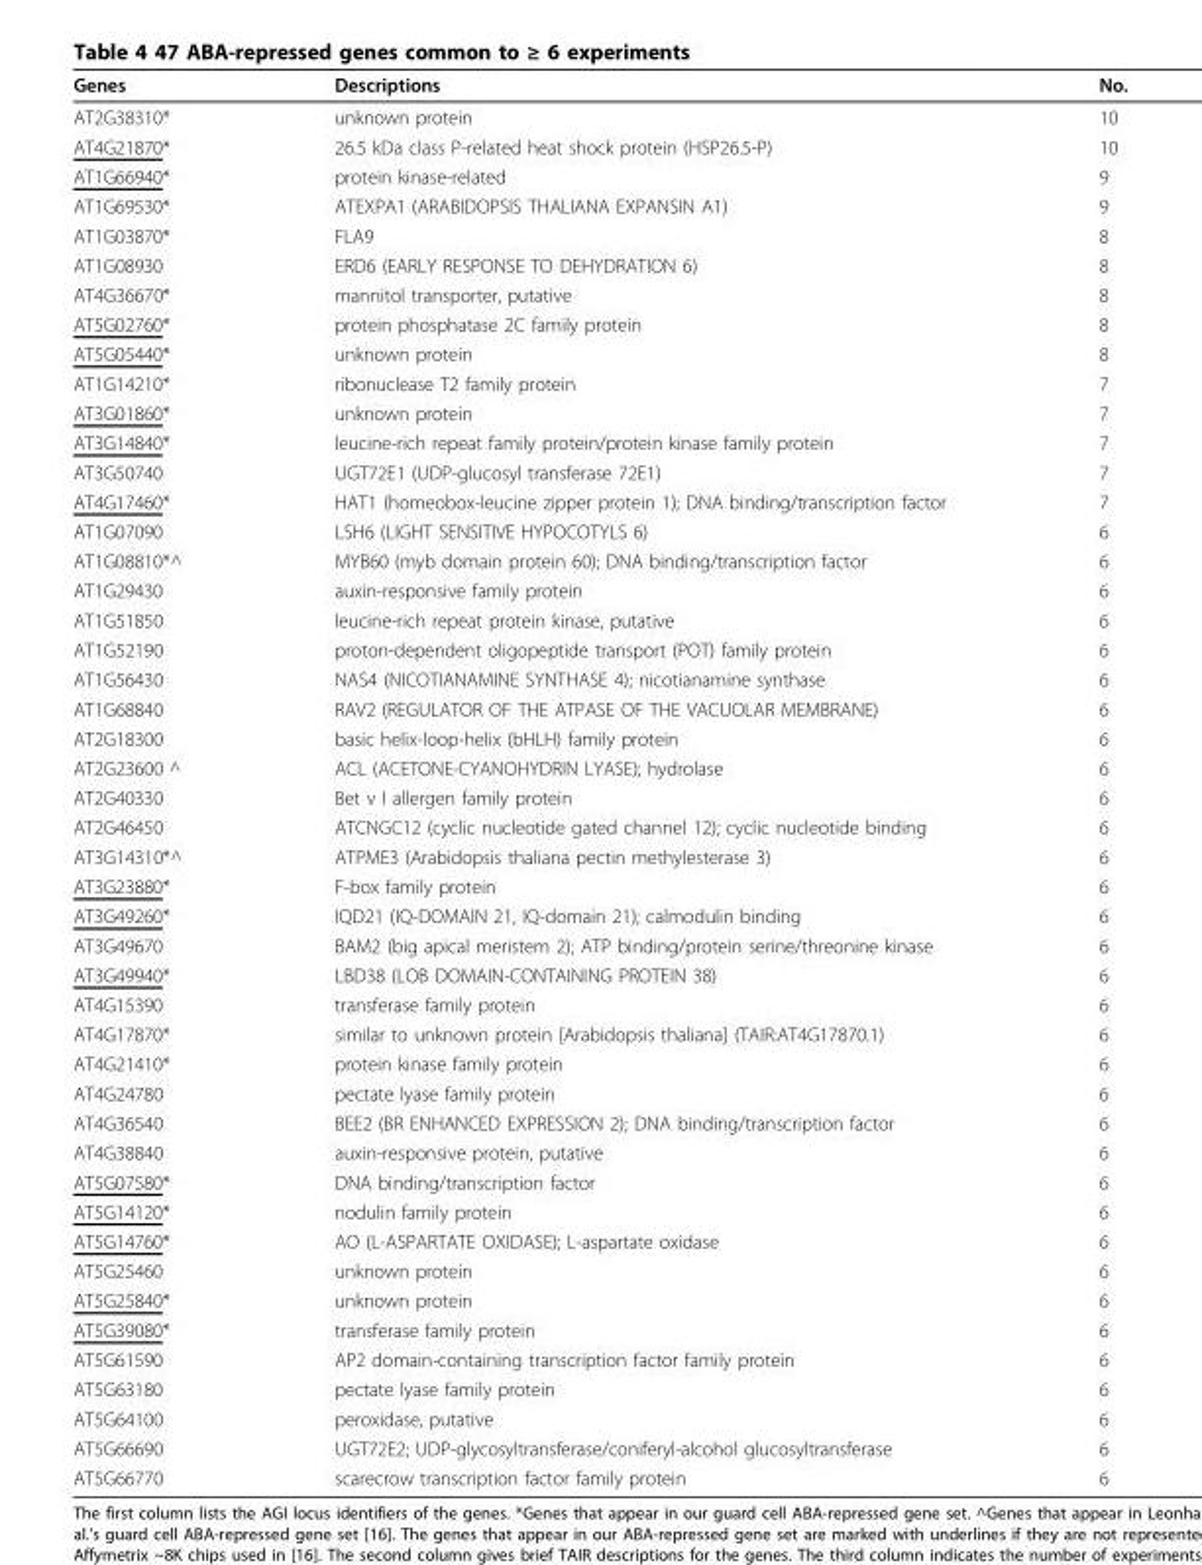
<table><thead><tr><td>Genes</td><td>Descriptions</td><td>No.</td></tr></thead><tbody><tr><td>AT2G38310*</td><td>unknown protein</td><td>10</td></tr><tr><td>AT4G21870*</td><td>26.5 kDa class P-related heat shock protein (HSP26.5-P)</td><td>10</td></tr><tr><td>AT1G66940*</td><td>protein kinase-related</td><td>9</td></tr><tr><td>AT1G69530*</td><td>ATEXPA1 (ARABIDOPSIS THALIANA EXPANSIN A1)</td><td>9</td></tr><tr><td>AT1G03870*</td><td>FLA9</td><td>8</td></tr><tr><td>AT1G08930</td><td>ERD6 (EARLY RESPONSE TO DEHYDRATION 6)</td><td>8</td></tr><tr><td>AT4G36670*</td><td>mannitol transporter, putative</td><td>8</td></tr><tr><td>AT5G02760*</td><td>protein phosphatase 2C family protein</td><td>8</td></tr><tr><td>AT5G05440*</td><td>unknown protein</td><td>8</td></tr><tr><td>AT1G14210*</td><td>ribonuclease T2 family protein</td><td>7</td></tr><tr><td>AT3G01860*</td><td>unknown protein</td><td>7</td></tr><tr><td>AT3G14840*</td><td>leucine-rich repeat family protein/protein kinase family protein</td><td>7</td></tr><tr><td>AT3G50740</td><td>UGT72E1 (UDP-glucosyl transferase 72E1)</td><td>7</td></tr><tr><td>AT4G17460*</td><td>HAT1 (homeobox-leucine zipper protein 1); DNA binding/transcription factor</td><td>7</td></tr><tr><td>AT1G07090</td><td>LSH6 (LIGHT SENSITIVE HYPOCOTYLS 6)</td><td>6</td></tr><tr><td>AT1G08810*^</td><td>MYB60 (myb domain protein 60); DNA binding/transcription factor</td><td>6</td></tr><tr><td>AT1G29430</td><td>auxin-responsive family protein</td><td>6</td></tr><tr><td>AT1G51850</td><td>leucine-rich repeat protein kinase, putative</td><td>6</td></tr><tr><td>AT1G52190</td><td>proton-dependent oligopeptide transport (POT) family protein</td><td>6</td></tr><tr><td>AT1G56430</td><td>NAS4 (NICOTIANAMINE SYNTHASE 4); nicotianamine synthase</td><td>6</td></tr><tr><td>AT1G68840</td><td>RAV2 (REGULATOR OF THE ATPASE OF THE VACUOLAR MEMBRANE)</td><td>6</td></tr><tr><td>AT2G18300</td><td>basic helix-loop-helix (bHLH) family protein</td><td>6</td></tr><tr><td>AT2G23600 ^</td><td>ACL (ACETONE-CYANOHYDRIN LYASE); hydrolase</td><td>6</td></tr><tr><td>AT2G40330</td><td>Bet v I allergen family protein</td><td>6</td></tr><tr><td>AT2G46450</td><td>ATCNGC12 (cyclic nucleotide gated channel 12); cyclic nucleotide binding</td><td>6</td></tr><tr><td>AT3G14310*^</td><td>ATPME3 (Arabidopsis thaliana pectin methylesterase 3)</td><td>6</td></tr><tr><td>AT3G23880*</td><td>F-box family protein</td><td>6</td></tr><tr><td>AT3G49260*</td><td>IQD21 (IQ-DOMAIN 21, IQ-domain 21); calmodulin binding</td><td>6</td></tr><tr><td>AT3G49670</td><td>BAM2 (big apical meristem 2); ATP binding/protein serine/threonine kinase</td><td>6</td></tr><tr><td>AT3G49940*</td><td>LBD38 (LOB DOMAIN-CONTAINING PROTEIN 38)</td><td>6</td></tr><tr><td>AT4G15390</td><td>transferase family protein</td><td>6</td></tr><tr><td>AT4G17870*</td><td>similar to unknown protein [Arabidopsis thaliana] (TAIR:AT4G17870.1)</td><td>6</td></tr><tr><td>AT4G21410*</td><td>protein kinase family protein</td><td>6</td></tr><tr><td>AT4G24780</td><td>pectate lyase family protein</td><td>6</td></tr><tr><td>AT4G36540</td><td>BEE2 (BR ENHANCED EXPRESSION 2); DNA binding/transcription factor</td><td>6</td></tr><tr><td>AT4G38840</td><td>auxin-responsive protein, putative</td><td>6</td></tr><tr><td>AT5G07580*</td><td>DNA binding/transcription factor</td><td>6</td></tr><tr><td>AT5G14120*</td><td>nodulin family protein</td><td>6</td></tr><tr><td>AT5G14760*</td><td>AO (L-ASPARTATE OXIDASE); L-aspartate oxidase</td><td>6</td></tr><tr><td>AT5G25460</td><td>unknown protein</td><td>6</td></tr><tr><td>AT5G25840*</td><td>unknown protein</td><td>6</td></tr><tr><td>AT5G39080*</td><td>transferase family protein</td><td>6</td></tr><tr><td>AT5G61590</td><td>AP2 domain-containing transcription factor family protein</td><td>6</td></tr><tr><td>AT5G63180</td><td>pectate lyase family protein</td><td>6</td></tr><tr><td>AT5G64100</td><td>peroxidase, putative</td><td>6</td></tr><tr><td>AT5G66690</td><td>UGT72E2; UDP-glycosyltransferase/coniferyl-alcohol glucosyltransferase</td><td>6</td></tr><tr><td>AT5G66770</td><td>scarecrow transcription factor family protein</td><td>6</td></tr></tbody></table>